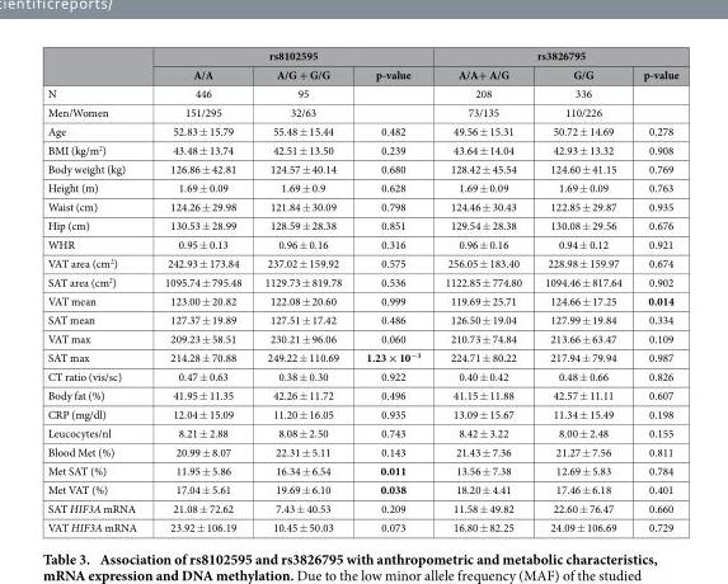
<table><thead><tr><td rowspan="2"></td><td colspan="3">rs8102595</td><td colspan="3">rs3826795</td></tr><tr><td>A/A</td><td>A/G + G/G</td><td>p-value</td><td>A/A+ A/G</td><td>G/G</td><td>p-value</td></tr></thead><tbody><tr><td>N</td><td>446</td><td>95</td><td></td><td>208</td><td>336</td><td></td></tr><tr><td>Men/Women</td><td>151/295</td><td>32/63</td><td></td><td>73/135</td><td>110/226</td><td></td></tr><tr><td>Age</td><td>52.83 ± 15.79</td><td>55.48 ± 15.44</td><td>0.482</td><td>49.56 ± 15.31</td><td>50.72 ± 14.69</td><td>0.278</td></tr><tr><td>BMI (kg/m<sup>2</sup>)</td><td>43.48 ± 13.74</td><td>42.51 ± 13.50</td><td>0.239</td><td>43.64 ± 14.04</td><td>42.93 ± 13.32</td><td>0.908</td></tr><tr><td>Body weight (kg)</td><td>126.86 ± 42.81</td><td>124.57 ± 40.14</td><td>0.680</td><td>128.42 ± 45.54</td><td>124.60 ± 41.15</td><td>0.769</td></tr><tr><td>Height (m)</td><td>1.69 ± 0.09</td><td>1.69 ± 0.9</td><td>0.628</td><td>1.69 ± 0.09</td><td>1.69 ± 0.09</td><td>0.763</td></tr><tr><td>Waist (cm)</td><td>124.26 ± 29.98</td><td>121.84 ± 30.09</td><td>0.798</td><td>124.46 ± 30.43</td><td>122.85 ± 29.87</td><td>0.935</td></tr><tr><td>Hip (cm)</td><td>130.53 ± 28.99</td><td>128.59 ± 28.38</td><td>0.851</td><td>129.54 ± 28.38</td><td>130.08 ± 29.56</td><td>0.676</td></tr><tr><td>WHR</td><td>0.95 ± 0.13</td><td>0.96 ± 0.16</td><td>0.316</td><td>0.96 ± 0.16</td><td>0.94 ± 0.12</td><td>0.921</td></tr><tr><td>VAT area (cm<sup>2</sup>)</td><td>242.93 ± 173.84</td><td>237.02 ± 159.92</td><td>0.575</td><td>256.05 ± 183.40</td><td>228.98 ± 159.97</td><td>0.674</td></tr><tr><td>SAT area (cm<sup>2</sup>)</td><td>1095.74 ± 795.48</td><td>1129.73 ± 819.78</td><td>0.536</td><td>1122.85 ± 774.80</td><td>1094.46 ± 817.64</td><td>0.902</td></tr><tr><td>VAT mean</td><td>123.00 ± 20.82</td><td>122.08 ± 20.60</td><td>0.999</td><td>119.69 ± 25.71</td><td>124.66 ± 17.25</td><td>0.014</td></tr><tr><td>SAT mean</td><td>127.37 ± 19.89</td><td>127.51 ± 17.42</td><td>0.486</td><td>126.50 ± 19.04</td><td>127.99 ± 19.84</td><td>0.334</td></tr><tr><td>VAT max</td><td>209.23 ± 58.51</td><td>230.21 ± 96.06</td><td>0.060</td><td>210.73 ± 74.84</td><td>213.66 ± 63.47</td><td>0.109</td></tr><tr><td>SAT max</td><td>214.28 ± 70.88</td><td>249.22 ± 110.69</td><td>1.23 × 10<sup>−3</sup></td><td>224.71 ± 80.22</td><td>217.94 ± 79.94</td><td>0.987</td></tr><tr><td>CT ratio (vis/sc)</td><td>0.47 ± 0.63</td><td>0.38 ± 0.30</td><td>0.922</td><td>0.40 ± 0.42</td><td>0.48 ± 0.66</td><td>0.826</td></tr><tr><td>Body fat (%)</td><td>41.95 ± 11.35</td><td>42.26 ± 11.72</td><td>0.496</td><td>41.15 ± 11.88</td><td>42.57 ± 11.11</td><td>0.607</td></tr><tr><td>CRP (mg/dl)</td><td>12.04 ± 15.09</td><td>11.20 ± 16.05</td><td>0.935</td><td>13.09 ± 15.67</td><td>11.34 ± 15.49</td><td>0.198</td></tr><tr><td>Leucocytes/nl</td><td>8.21 ± 2.88</td><td>8.08 ± 2.50</td><td>0.743</td><td>8.42 ± 3.22</td><td>8.00 ± 2.48</td><td>0.155</td></tr><tr><td>Blood Met (%)</td><td>20.99 ± 8.07</td><td>22.31 ± 5.11</td><td>0.143</td><td>21.43 ± 7.36</td><td>21.27 ± 7.56</td><td>0.811</td></tr><tr><td>Met SAT (%)</td><td>11.95 ± 5.86</td><td>16.34 ± 6.54</td><td>0.011</td><td>13.56 ± 7.38</td><td>12.69 ± 5.83</td><td>0.784</td></tr><tr><td>Met VAT (%)</td><td>17.04 ± 5.61</td><td>19.69 ± 6.10</td><td>0.038</td><td>18.20 ± 4.41</td><td>17.46 ± 6.18</td><td>0.401</td></tr><tr><td>SAT HIF3A mRNA</td><td>21.08 ± 72.62</td><td>7.43 ± 40.53</td><td>0.209</td><td>11.58 ± 49.82</td><td>22.60 ± 76.47</td><td>0.660</td></tr><tr><td>VAT HIF3A mRNA</td><td>23.92 ± 106.19</td><td>10.45 ± 50.03</td><td>0.073</td><td>16.80 ± 82.25</td><td>24.09 ± 106.69</td><td>0.729</td></tr></tbody></table>